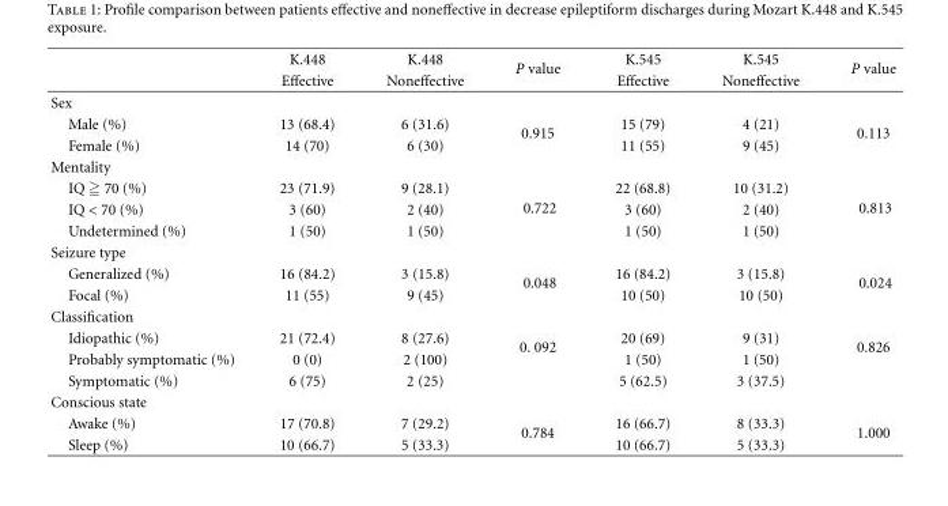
<table><thead><tr><td rowspan="2"></td><td rowspan="2">K.448 Effective</td><td rowspan="2">K.448 Noneffective</td><td rowspan="2">P value</td><td rowspan="2">K.545 Effective</td><td rowspan="2">K.545 Noneffective</td><td rowspan="2">P value</td></tr><tr></tr></thead><tbody><tr><td colspan="7">Sex</td></tr><tr><td>Male (%)</td><td>13 (68.4)</td><td>6 (31.6)</td><td rowspan="2">0.915</td><td>15 (79)</td><td>4 (21)</td><td rowspan="2">0.113</td></tr><tr><td>Female (%)</td><td>14 (70)</td><td>6 (30)</td><td>11 (55)</td><td>9 (45)</td></tr><tr><td colspan="7">Mentality</td></tr><tr><td>IQ ≧ 70 (%)</td><td>23 (71.9)</td><td>9 (28.1)</td><td rowspan="3">0.722</td><td>22 (68.8)</td><td>10 (31.2)</td><td rowspan="3">0.813</td></tr><tr><td>IQ &lt; 70 (%)</td><td>3 (60)</td><td>2 (40)</td><td>3 (60)</td><td>2 (40)</td></tr><tr><td>Undetermined (%)</td><td>1 (50)</td><td>1 (50)</td><td>1 (50)</td><td>1 (50)</td></tr><tr><td colspan="7">Seizure type</td></tr><tr><td>Generalized (%)</td><td>16 (84.2)</td><td>3 (15.8)</td><td rowspan="2">0.048</td><td>16 (84.2)</td><td>3 (15.8)</td><td rowspan="2">0.024</td></tr><tr><td>Focal (%)</td><td>11 (55)</td><td>9 (45)</td><td>10 (50)</td><td>10 (50)</td></tr><tr><td colspan="7">Classification</td></tr><tr><td>Idiopathic (%)</td><td>21 (72.4)</td><td>8 (27.6)</td><td rowspan="2">0. 092</td><td>20 (69)</td><td>9 (31)</td><td rowspan="2">0.826</td></tr><tr><td>Probably symptomatic (%)</td><td>0 (0)</td><td>2 (100)</td><td>1 (50)</td><td>1 (50)</td></tr><tr><td>Symptomatic (%)</td><td>6 (75)</td><td>2 (25)</td><td></td><td>5 (62.5)</td><td>3 (37.5)</td><td></td></tr><tr><td colspan="7">Conscious state</td></tr><tr><td>Awake (%)</td><td>17 (70.8)</td><td>7 (29.2)</td><td rowspan="2">0.784</td><td>16 (66.7)</td><td>8 (33.3)</td><td rowspan="2">1.000</td></tr><tr><td>Sleep (%)</td><td>10 (66.7)</td><td>5 (33.3)</td><td>10 (66.7)</td><td>5 (33.3)</td></tr></tbody></table>